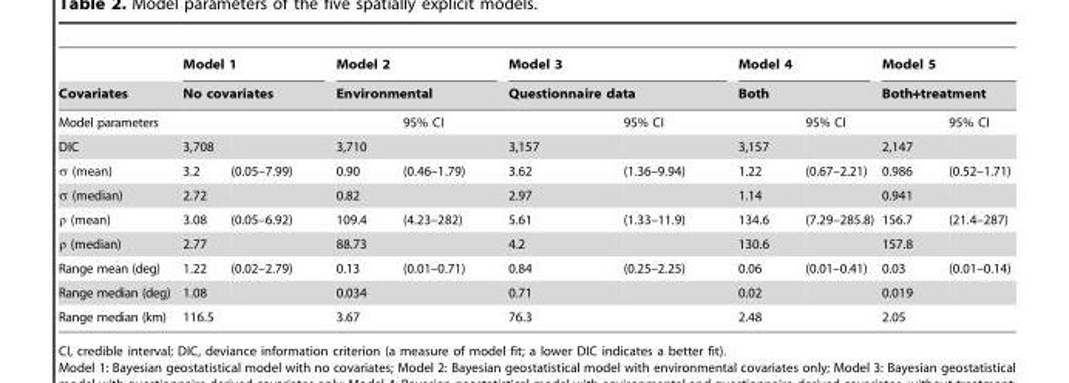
<table><thead><tr><td rowspan="3">Covariates Model parameters</td><td rowspan="2" colspan="2">Model 1 No covariates</td><td rowspan="2" colspan="2">Model 2 Environmental</td><td rowspan="2" colspan="2">Model 3 Questionnaire data</td><td rowspan="2" colspan="2">Model 4 Both</td><td rowspan="2" colspan="2">Model 5 Both+treatment</td></tr><tr></tr><tr><td></td><td></td><td></td><td>95% CI</td><td></td><td>95% CI</td><td></td><td>95% CI</td><td></td><td>95% CI</td></tr></thead><tbody><tr><td>DIC</td><td>3,708</td><td></td><td>3,710</td><td></td><td>3,157</td><td></td><td>3,157</td><td></td><td>2,147</td><td></td></tr><tr><td>σ (mean)</td><td>3.2</td><td>(0.05–7.99)</td><td>0.90</td><td>(0.46–1.79)</td><td>3.62</td><td>(1.36–9.94)</td><td>1.22</td><td>(0.67–2.21)</td><td>0.986</td><td>(0.52–1.71)</td></tr><tr><td>σ (median)</td><td>2.72</td><td></td><td>0.82</td><td></td><td>2.97</td><td></td><td>1.14</td><td></td><td>0.941</td><td></td></tr><tr><td>ρ (mean)</td><td>3.08</td><td>(0.05–6.92)</td><td>109.4</td><td>(4.23–282)</td><td>5.61</td><td>(1.33–11.9)</td><td>134.6</td><td>(7.29–285.8)</td><td>156.7</td><td>(21.4–287)</td></tr><tr><td>ρ (median)</td><td>2.77</td><td></td><td>88.73</td><td></td><td>4.2</td><td></td><td>130.6</td><td></td><td>157.8</td><td></td></tr><tr><td>Range mean (deg)</td><td>1.22</td><td>(0.02–2.79)</td><td>0.13</td><td>(0.01–0.71)</td><td>0.84</td><td>(0.25–2.25)</td><td>0.06</td><td>(0.01–0.41)</td><td>0.03</td><td>(0.01–0.14)</td></tr><tr><td>Range median (deg)</td><td>1.08</td><td></td><td>0.034</td><td></td><td>0.71</td><td></td><td>0.02</td><td></td><td>0.019</td><td></td></tr><tr><td>Range median (km)</td><td>116.5</td><td></td><td>3.67</td><td></td><td>76.3</td><td></td><td>2.48</td><td></td><td>2.05</td><td></td></tr></tbody></table>